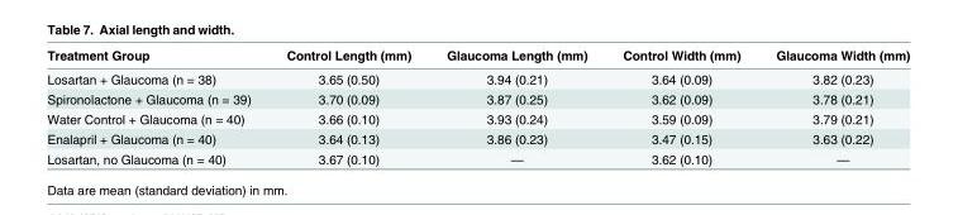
<table><thead><tr><td>Treatment Group</td><td>Control Length (mm)</td><td>Glaucoma Length (mm)</td><td>Control Width (mm)</td><td>Glaucoma Width (mm)</td></tr></thead><tbody><tr><td>Losartan + Glaucoma (n = 38)</td><td>3.65 (0.50)</td><td>3.94 (0.21)</td><td>3.64 (0.09)</td><td>3.82 (0.23)</td></tr><tr><td>Spironolactone + Glaucoma (n = 39)</td><td>3.70 (0.09)</td><td>3.87 (0.25)</td><td>3.62 (0.09)</td><td>3.78 (0.21)</td></tr><tr><td>Water Control + Glaucoma (n = 40)</td><td>3.66 (0.10)</td><td>3.93 (0.24)</td><td>3.59 (0.09)</td><td>3.79 (0.21)</td></tr><tr><td>Enalapril + Glaucoma (n = 40)</td><td>3.64 (0.13)</td><td>3.86 (0.23)</td><td>3.47 (0.15)</td><td>3.63 (0.22)</td></tr><tr><td>Losartan, no Glaucoma (n = 40)</td><td>3.67 (0.10)</td><td>—</td><td>3.62 (0.10)</td><td>—</td></tr></tbody></table>